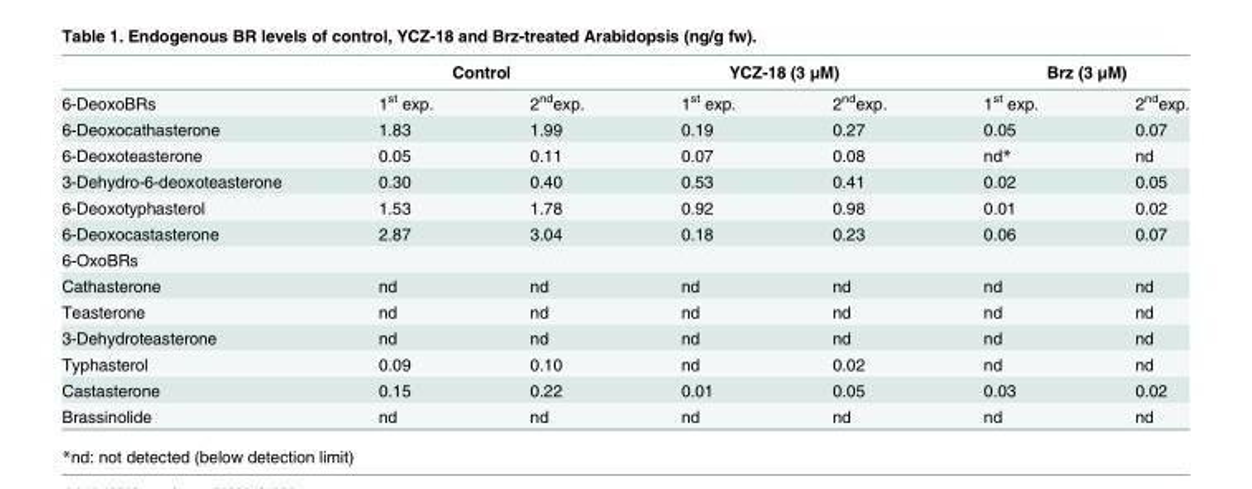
<table><thead><tr><td rowspan="2">6-DeoxoBRs</td><td colspan="2">Control</td><td colspan="2">YCZ-18 (3 μM)</td><td colspan="2">Brz (3 μM)</td></tr><tr><td>1<sup>st</sup> exp.</td><td>2<sup>nd</sup>exp.</td><td>1<sup>st</sup> exp.</td><td>2<sup>nd</sup>exp.</td><td>1<sup>st</sup> exp.</td><td>2<sup>nd</sup>exp.</td></tr></thead><tbody><tr><td>6-Deoxocathasterone</td><td>1.83</td><td>1.99</td><td>0.19</td><td>0.27</td><td>0.05</td><td>0.07</td></tr><tr><td>6-Deoxoteasterone</td><td>0.05</td><td>0.11</td><td>0.07</td><td>0.08</td><td>nd*</td><td>nd</td></tr><tr><td>3-Dehydro-6-deoxoteasterone</td><td>0.30</td><td>0.40</td><td>0.53</td><td>0.41</td><td>0.02</td><td>0.05</td></tr><tr><td>6-Deoxotyphasterol</td><td>1.53</td><td>1.78</td><td>0.92</td><td>0.98</td><td>0.01</td><td>0.02</td></tr><tr><td>6-Deoxocastasterone</td><td>2.87</td><td>3.04</td><td>0.18</td><td>0.23</td><td>0.06</td><td>0.07</td></tr><tr><td colspan="7">6-OxoBRs</td></tr><tr><td>Cathasterone</td><td>nd</td><td>nd</td><td>nd</td><td>nd</td><td>nd</td><td>nd</td></tr><tr><td>Teasterone</td><td>nd</td><td>nd</td><td>nd</td><td>nd</td><td>nd</td><td>nd</td></tr><tr><td>3-Dehydroteasterone</td><td>nd</td><td>nd</td><td>nd</td><td>nd</td><td>nd</td><td>nd</td></tr><tr><td>Typhasterol</td><td>0.09</td><td>0.10</td><td>nd</td><td>0.02</td><td>nd</td><td>nd</td></tr><tr><td>Castasterone</td><td>0.15</td><td>0.22</td><td>0.01</td><td>0.05</td><td>0.03</td><td>0.02</td></tr><tr><td>Brassinolide</td><td>nd</td><td>nd</td><td>nd</td><td>nd</td><td>nd</td><td>nd</td></tr></tbody></table>